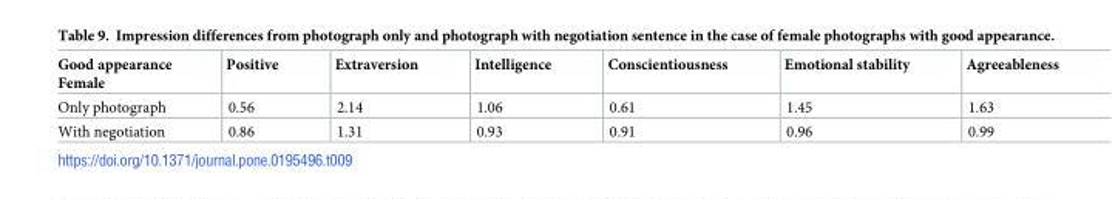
<table><thead><tr><td>Good appearance Female</td><td>Positive</td><td>Extraversion</td><td>Intelligence</td><td>Conscientiousness</td><td>Emotional stability</td><td>Agreeableness</td></tr></thead><tbody><tr><td>Only photograph</td><td>0.56</td><td>2.14</td><td>1.06</td><td>0.61</td><td>1.45</td><td>1.63</td></tr><tr><td>With negotiation</td><td>0.86</td><td>1.31</td><td>0.93</td><td>0.91</td><td>0.96</td><td>0.99</td></tr></tbody></table>